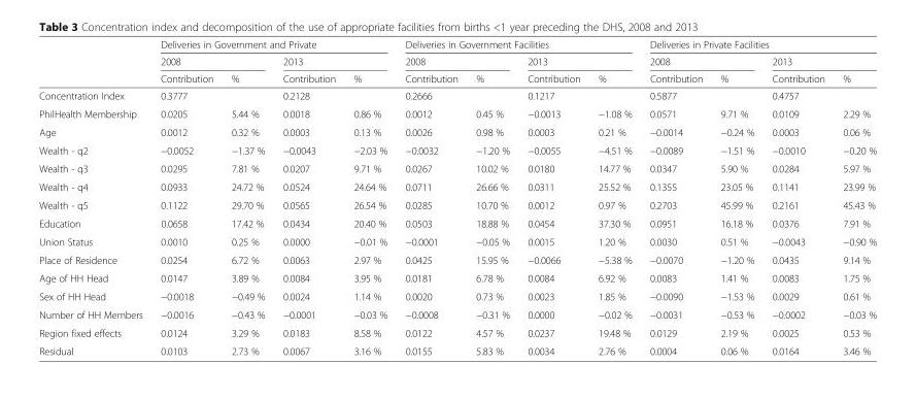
<table><thead><tr><td rowspan="3"></td><td colspan="4">Deliveries in Government and Private</td><td colspan="4">Deliveries in Government Facilities</td><td colspan="4">Deliveries in Private Facilities</td></tr><tr><td colspan="2">2008</td><td colspan="2">2013</td><td colspan="2">2008</td><td colspan="2">2013</td><td colspan="2">2008</td><td colspan="2">2013</td></tr><tr><td>Contribution</td><td>%</td><td>Contribution</td><td>%</td><td>Contribution</td><td>%</td><td>Contribution</td><td>%</td><td>Contribution</td><td>%</td><td>Contribution</td><td>%</td></tr></thead><tbody><tr><td>Concentration Index</td><td colspan="2">0.3777</td><td colspan="2">0.2128</td><td colspan="2">0.2666</td><td colspan="2">0.1217</td><td colspan="2">0.5877</td><td colspan="2">0.4757</td></tr><tr><td>PhilHealth Membership</td><td>0.0205</td><td>5.44 %</td><td>0.0018</td><td>0.86 %</td><td>0.0012</td><td>0.45 %</td><td>−0.0013</td><td>−1.08 %</td><td>0.0571</td><td>9.71 %</td><td>0.0109</td><td>2.29 %</td></tr><tr><td>Age</td><td>0.0012</td><td>0.32 %</td><td>0.0003</td><td>0.13 %</td><td>0.0026</td><td>0.98 %</td><td>0.0003</td><td>0.21 %</td><td>−0.0014</td><td>−0.24 %</td><td>0.0003</td><td>0.06 %</td></tr><tr><td>Wealth - q2</td><td>−0.0052</td><td>−1.37 %</td><td>−0.0043</td><td>−2.03 %</td><td>−0.0032</td><td>−1.20 %</td><td>−0.0055</td><td>−4.51 %</td><td>−0.0089</td><td>−1.51 %</td><td>−0.0010</td><td>−0.20 %</td></tr><tr><td>Wealth - q3</td><td>0.0295</td><td>7.81 %</td><td>0.0207</td><td>9.71 %</td><td>0.0267</td><td>10.02 %</td><td>0.0180</td><td>14.77 %</td><td>0.0347</td><td>5.90 %</td><td>0.0284</td><td>5.97 %</td></tr><tr><td>Wealth - q4</td><td>0.0933</td><td>24.72 %</td><td>0.0524</td><td>24.64 %</td><td>0.0711</td><td>26.66 %</td><td>0.0311</td><td>25.52 %</td><td>0.1355</td><td>23.05 %</td><td>0.1141</td><td>23.99 %</td></tr><tr><td>Wealth - q5</td><td>0.1122</td><td>29.70 %</td><td>0.0565</td><td>26.54 %</td><td>0.0285</td><td>10.70 %</td><td>0.0012</td><td>0.97 %</td><td>0.2703</td><td>45.99 %</td><td>0.2161</td><td>45.43 %</td></tr><tr><td>Education</td><td>0.0658</td><td>17.42 %</td><td>0.0434</td><td>20.40 %</td><td>0.0503</td><td>18.88 %</td><td>0.0454</td><td>37.30 %</td><td>0.0951</td><td>16.18 %</td><td>0.0376</td><td>7.91 %</td></tr><tr><td>Union Status</td><td>0.0010</td><td>0.25 %</td><td>0.0000</td><td>−0.01 %</td><td>−0.0001</td><td>−0.05 %</td><td>0.0015</td><td>1.20 %</td><td>0.0030</td><td>0.51 %</td><td>−0.0043</td><td>−0.90 %</td></tr><tr><td>Place of Residence</td><td>0.0254</td><td>6.72 %</td><td>0.0063</td><td>2.97 %</td><td>0.0425</td><td>15.95 %</td><td>−0.0066</td><td>−5.38 %</td><td>−0.0070</td><td>−1.20 %</td><td>0.0435</td><td>9.14 %</td></tr><tr><td>Age of HH Head</td><td>0.0147</td><td>3.89 %</td><td>0.0084</td><td>3.95 %</td><td>0.0181</td><td>6.78 %</td><td>0.0084</td><td>6.92 %</td><td>0.0083</td><td>1.41 %</td><td>0.0083</td><td>1.75 %</td></tr><tr><td>Sex of HH Head</td><td>−0.0018</td><td>−0.49 %</td><td>0.0024</td><td>1.14 %</td><td>0.0020</td><td>0.73 %</td><td>0.0023</td><td>1.85 %</td><td>−0.0090</td><td>−1.53 %</td><td>0.0029</td><td>0.61 %</td></tr><tr><td>Number of HH Members</td><td>−0.0016</td><td>−0.43 %</td><td>−0.0001</td><td>−0.03 %</td><td>−0.0008</td><td>−0.31 %</td><td>0.0000</td><td>−0.02 %</td><td>−0.0031</td><td>−0.53 %</td><td>−0.0002</td><td>−0.03 %</td></tr><tr><td>Region fixed effects</td><td>0.0124</td><td>3.29 %</td><td>0.0183</td><td>8.58 %</td><td>0.0122</td><td>4.57 %</td><td>0.0237</td><td>19.48 %</td><td>0.0129</td><td>2.19 %</td><td>0.0025</td><td>0.53 %</td></tr><tr><td>Residual</td><td>0.0103</td><td>2.73 %</td><td>0.0067</td><td>3.16 %</td><td>0.0155</td><td>5.83 %</td><td>0.0034</td><td>2.76 %</td><td>0.0004</td><td>0.06 %</td><td>0.0164</td><td>3.46 %</td></tr></tbody></table>